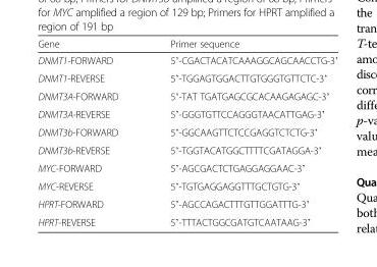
<table><thead><tr><td>Gene</td><td>Primer sequence</td></tr></thead><tbody><tr><td>DNMT1-FORWARD</td><td>5’-CGACTACATCAAAGGCAGCAACCTG-3’</td></tr><tr><td>DNMT1-REVERSE</td><td>5’-TGGAGTGGACTTGTGGGTGTTCTC-3’</td></tr><tr><td>DNMT3A-FORWARD</td><td>5’-TAT TGATGAGCGCACAAGAGAGC-3’</td></tr><tr><td>DNMT3A-REVERSE</td><td>5’-GGGTGTTCCAGGGTAACATTGAG-3’</td></tr><tr><td>DNMT3b-FORWARD</td><td>5’-GGCAAGTTCTCCGAGGTCTCTG-3’</td></tr><tr><td>DNMT3b-REVERSE</td><td>5’-TGGTACATGGCTTTTCGATAGGA-3’</td></tr><tr><td>MYC-FORWARD</td><td>5’-AGCGACTCTGAGGAGGAAC-3’</td></tr><tr><td>MYC-REVERSE</td><td>5’-TGTGAGGAGGTTTGCTGTG-3’</td></tr><tr><td>HPRT-FORWARD</td><td>5’-AGCCAGACTTTGTTGGATTTG-3’</td></tr><tr><td>HPRT-REVERSE</td><td>5’-TTTACTGGCGATGTCAATAAG-3’</td></tr></tbody></table>